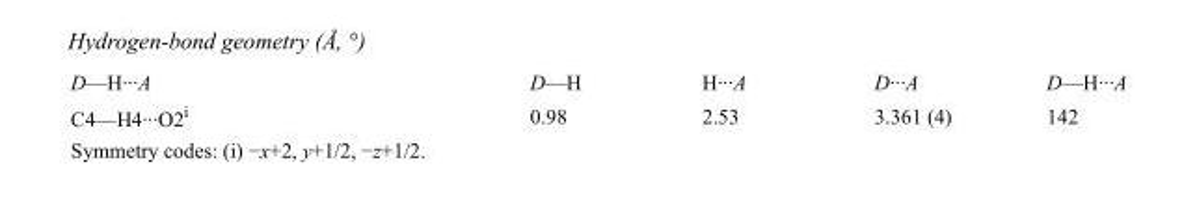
<table><tbody><tr><td>D—H···A</td><td>D—H</td><td>H···A</td><td>D···A</td><td>D—H···A</td></tr><tr><td>C4—H4···O2<sup>i</sup></td><td>0.98</td><td>2.53</td><td>3.361 (4)</td><td>142</td></tr></tbody></table>